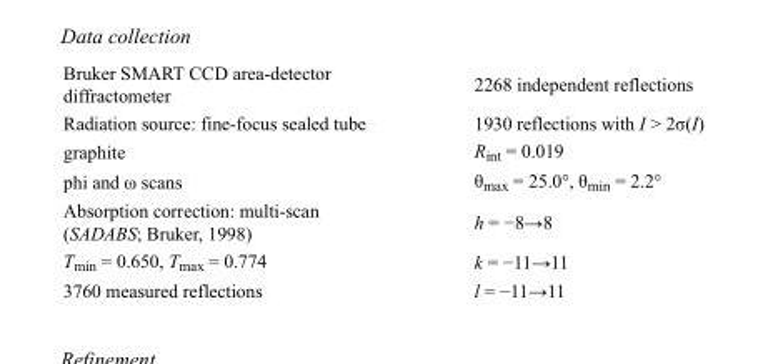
<table><tbody><tr><td>Bruker SMART CCD area-detector diffractometer</td><td>2268 independent reflections</td></tr><tr><td>Radiation source: fine-focus sealed tube</td><td>1930 reflections with I &gt; 2σ(I)</td></tr><tr><td>graphite</td><td>R<sub>int</sub> = 0.019</td></tr><tr><td>phi and ω scans</td><td>θ<sub>max</sub> = 25.0°, θ<sub>min</sub> = 2.2°</td></tr><tr><td>Absorption correction: multi-scan (SADABS; Bruker, 1998)</td><td>h = −8→8</td></tr><tr><td>T<sub>min</sub> = 0.650, T<sub>max</sub> = 0.774</td><td>k = −11→11</td></tr><tr><td>3760 measured reflections</td><td>l = −11→11</td></tr></tbody></table>